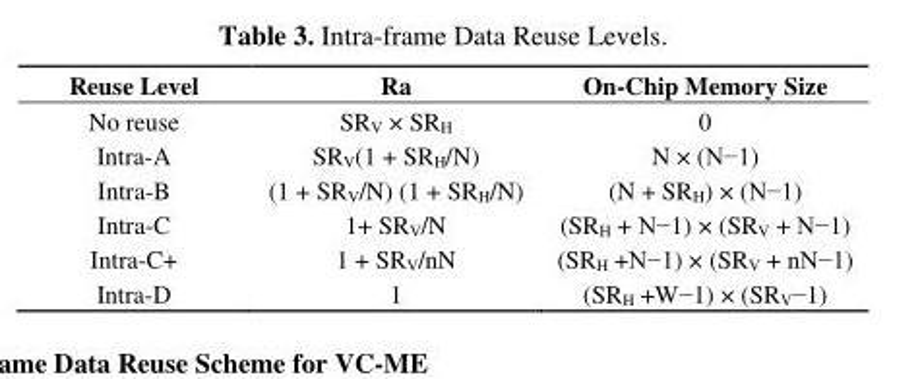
<table><thead><tr><td>Reuse Level</td><td>Ra</td><td>On-Chip Memory Size</td></tr></thead><tbody><tr><td>No reuse</td><td>SR<sub>V</sub> × SR<sub>H</sub></td><td>0</td></tr><tr><td>Intra-A</td><td>SR<sub>V</sub>(1 + SR<sub>H</sub>/N)</td><td>N × (N−1)</td></tr><tr><td>Intra-B</td><td>(1 + SR<sub>V</sub>/N) (1 + SR<sub>H</sub>/N)</td><td>(N + SR<sub>H</sub>) × (N−1)</td></tr><tr><td>Intra-C</td><td>1+ SR<sub>V</sub>/N</td><td>(SR<sub>H</sub> + N−1) × (SR<sub>V</sub> + N−1)</td></tr><tr><td>Intra-C+</td><td>1 + SR<sub>V</sub>/nN</td><td>(SR<sub>H</sub> +N−1) × (SR<sub>V</sub> + nN−1)</td></tr><tr><td>Intra-D</td><td>1</td><td>(SR<sub>H</sub> +W−1) × (SR<sub>V</sub>−1)</td></tr></tbody></table>